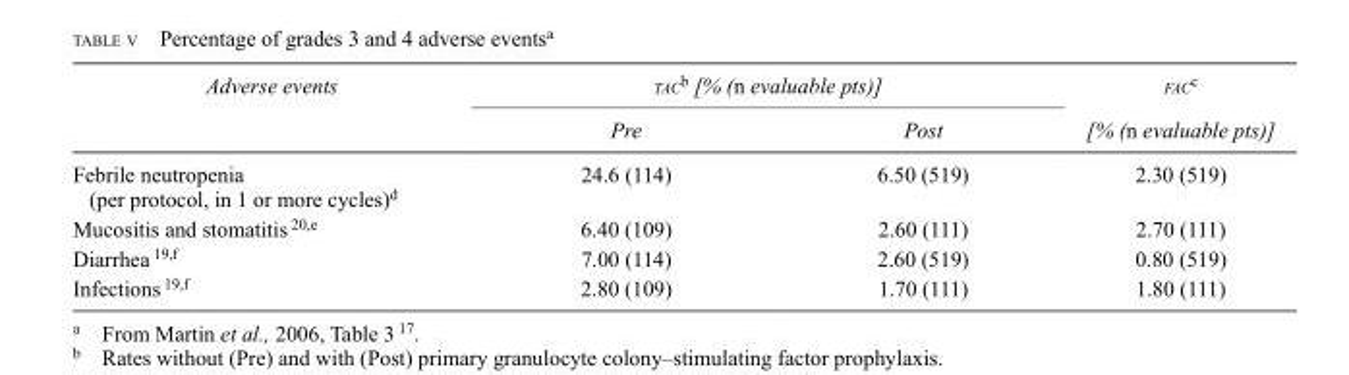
<table><thead><tr><td rowspan="2">Adverse events</td><td colspan="2">taC<sup>b</sup> [% (n evaluable pts)]</td><td rowspan="2">faC<sup>c</sup> [% (n evaluable pts)]</td></tr><tr><td>Pre</td><td>Post</td></tr></thead><tbody><tr><td>Febrile neutropenia (per protocol, in 1 or more cycles)<sup>d</sup></td><td>24.6 (114)</td><td>6.50 (519)</td><td>2.30 (519)</td></tr><tr><td>Mucositis and stomatitis 20,e</td><td>6.40 (109)</td><td>2.60 (111)</td><td>2.70 (111)</td></tr><tr><td>Diarrhea 19,f</td><td>7.00 (114)</td><td>2.60 (519)</td><td>0.80 (519)</td></tr><tr><td>Infections 19,f</td><td>2.80 (109)</td><td>1.70 (111)</td><td>1.80 (111)</td></tr></tbody></table>